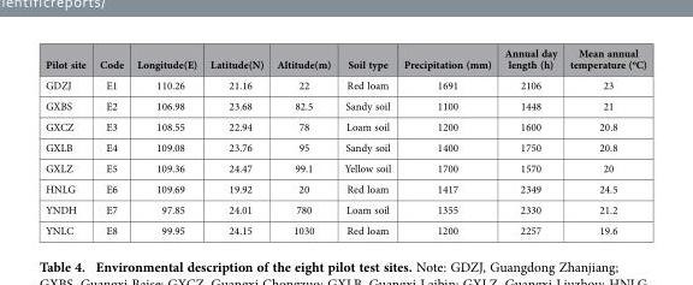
<table><thead><tr><td>Pilot site</td><td>Code</td><td>Longitude(E)</td><td>Latitude(N)</td><td>Altitude(m)</td><td>Soil type</td><td>Precipitation (mm)</td><td>Annual day length (h)</td><td>Mean annual temperature (<sup>o</sup>C)</td></tr></thead><tbody><tr><td>GDZJ</td><td>E1</td><td>110.26</td><td>21.16</td><td>22</td><td>Red loam</td><td>1691</td><td>2106</td><td>23</td></tr><tr><td>GXBS</td><td>E2</td><td>106.98</td><td>23.68</td><td>82.5</td><td>Sandy soil</td><td>1100</td><td>1448</td><td>21</td></tr><tr><td>GXCZ</td><td>E3</td><td>108.55</td><td>22.94</td><td>78</td><td>Loam soil</td><td>1200</td><td>1600</td><td>20.8</td></tr><tr><td>GXLB</td><td>E4</td><td>109.08</td><td>23.76</td><td>95</td><td>Sandy soil</td><td>1400</td><td>1750</td><td>20.8</td></tr><tr><td>GXLZ</td><td>E5</td><td>109.36</td><td>24.47</td><td>99.1</td><td>Yellow soil</td><td>1700</td><td>1570</td><td>20</td></tr><tr><td>HNLG</td><td>E6</td><td>109.69</td><td>19.92</td><td>20</td><td>Red loam</td><td>1417</td><td>2349</td><td>24.5</td></tr><tr><td>YNDH</td><td>E7</td><td>97.85</td><td>24.01</td><td>780</td><td>Loam soil</td><td>1355</td><td>2330</td><td>21.2</td></tr><tr><td>YNLC</td><td>E8</td><td>99.95</td><td>24.15</td><td>1030</td><td>Red loam</td><td>1200</td><td>2257</td><td>19.6</td></tr></tbody></table>